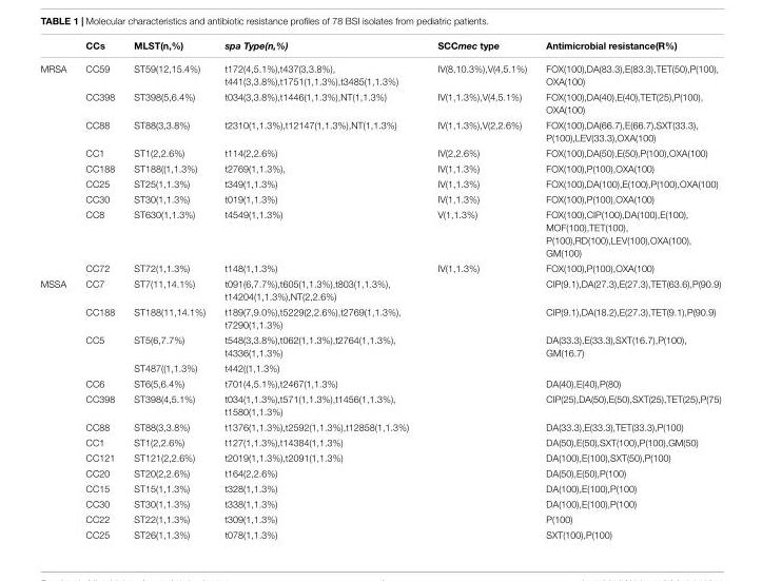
<table><thead><tr><td></td><td>CCs</td><td>MLST(n,%)</td><td>spa Type(n,%)</td><td>SCCmec type</td><td>Antimicrobial resistance(R%)</td></tr></thead><tbody><tr><td rowspan="9">MRSA</td><td>CC59</td><td>ST59(12,15.4%)</td><td>t172(4,5.1%),t437(3,3.8%), t441(3,3.8%),t1751(1,1.3%),t3485(1,1.3%)</td><td>IV(8,10.3%),V(4,5.1%)</td><td>FOX(100),DA(83.3),E(83.3),TET(50),P(100), OXA(100)</td></tr><tr><td>CC398</td><td>ST398(5,6.4%)</td><td>t034(3,3.8%),t1446(1,1.3%),NT(1,1.3%)</td><td>IV(1,1.3%),V(4,5.1%)</td><td>FOX(100),DA(40),E(40),TET(25),P(100), OXA(100)</td></tr><tr><td>CC88</td><td>ST88(3,3.8%)</td><td>t2310(1,1.3%),t12147(1,1.3%),NT(1,1.3%)</td><td>IV(1,1.3%),V(2,2.6%)</td><td>FOX(100),DA(66.7),E(66.7),SXT(33.3), P(100),LEV(33.3),OXA(100)</td></tr><tr><td>CC1</td><td>ST1(2,2.6%)</td><td>t114(2,2.6%)</td><td>IV(2,2.6%)</td><td>FOX(100),DA(50),E(50),P(100),OXA(100)</td></tr><tr><td>CC188</td><td>ST188((1,1.3%)</td><td>t2769(1,1.3%),</td><td>IV(1,1.3%)</td><td>FOX(100),P(100),OXA(100)</td></tr><tr><td>CC25</td><td>ST25(1,1.3%)</td><td>t349(1,1.3%)</td><td>IV(1,1.3%)</td><td>FOX(100),DA(100),E(100),P(100),OXA(100)</td></tr><tr><td>CC30</td><td>ST30(1,1.3%)</td><td>t019(1,1.3%)</td><td>IV(1,1.3%)</td><td>FOX(100),P(100),OXA(100)</td></tr><tr><td>CC8</td><td>ST630(1,1.3%)</td><td>t4549(1,1.3%)</td><td>V(1,1.3%)</td><td>FOX(100),CIP(100),DA(100),E(100), MOF(100),TET(100), P(100),RD(100),LEV(100),OXA(100), GM(100)</td></tr><tr><td>CC72</td><td>ST72(1,1.3%)</td><td>t148(1,1.3%)</td><td>IV(1,1.3%)</td><td>FOX(100),P(100),OXA(100)</td></tr><tr><td rowspan="14">MSSA</td><td>CC7</td><td>ST7(11,14.1%)</td><td>t091(6,7.7%),t605(1,1.3%),t803(1,1.3%), t14204(1,1.3%),NT(2,2.6%)</td><td></td><td>CIP(9.1),DA(27.3),E(27.3),TET(63.6),P(90.9)</td></tr><tr><td>CC188</td><td>ST188(11,14.1%)</td><td>t189(7,9.0%),t5229(2,2.6%),t2769(1,1.3%), t7290(1,1.3%)</td><td></td><td>CIP(9.1),DA(18.2),E(27.3),TET(9.1),P(90.9)</td></tr><tr><td>CC5</td><td>ST5(6,7.7%)</td><td>t548(3,3.8%),t062(1,1.3%),t2764(1,1.3%), t4336(1,1.3%)</td><td></td><td>DA(33.3),E(33.3),SXT(16.7),P(100), GM(16.7)</td></tr><tr><td></td><td>ST487((1,1.3%)</td><td>t442((1,1.3%)</td><td></td><td></td></tr><tr><td>CC6</td><td>ST6(5,6.4%)</td><td>t701(4,5.1%),t2467(1,1.3%)</td><td></td><td>DA(40),E(40),P(80)</td></tr><tr><td>CC398</td><td>ST398(4,5.1%)</td><td>t034(1,1.3%),t571(1,1.3%),t1456(1,1.3%), t1580(1,1.3%)</td><td></td><td>CIP(25),DA(50),E(50),SXT(25),TET(25),P(75)</td></tr><tr><td>CC88</td><td>ST88(3,3.8%)</td><td>t1376(1,1.3%),t2592(1,1.3%),t12858(1,1.3%)</td><td></td><td>DA(33.3),E(33.3),TET(33.3),P(100)</td></tr><tr><td>CC1</td><td>ST1(2,2.6%)</td><td>t127(1,1.3%),t14384(1,1.3%)</td><td></td><td>DA(50),E(50),SXT(100),P(100),GM(50)</td></tr><tr><td>CC121</td><td>ST121(2,2.6%)</td><td>t2019(1,1.3%),t2091(1,1.3%)</td><td></td><td>DA(100),E(100),SXT(50),P(100)</td></tr><tr><td>CC20</td><td>ST20(2,2.6%)</td><td>t164(2,2.6%)</td><td></td><td>DA(50),E(50),P(100)</td></tr><tr><td>CC15</td><td>ST15(1,1.3%)</td><td>t328(1,1.3%)</td><td></td><td>DA(100),E(100),P(100)</td></tr><tr><td>CC30</td><td>ST30(1,1.3%)</td><td>t338(1,1.3%)</td><td></td><td>DA(100),E(100),P(100)</td></tr><tr><td>CC22</td><td>ST22(1,1.3%)</td><td>t309(1,1.3%)</td><td></td><td>P(100)</td></tr><tr><td>CC25</td><td>ST26(1,1.3%)</td><td>t078(1,1.3%)</td><td></td><td>SXT(100),P(100)</td></tr></tbody></table>